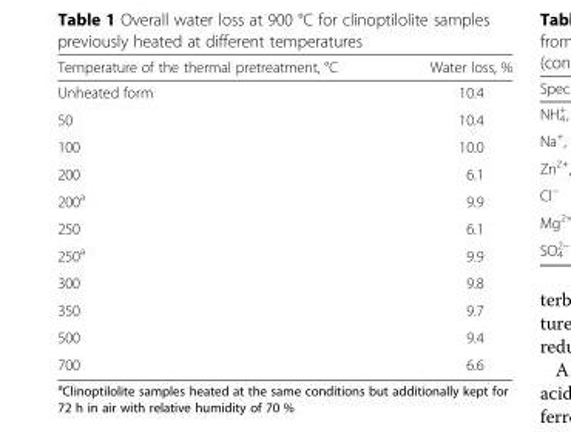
<table><thead><tr><td>Temperature of the thermal pretreatment, °C</td><td>Water loss, %</td></tr></thead><tbody><tr><td>Unheated form</td><td>10.4</td></tr><tr><td>50</td><td>10.4</td></tr><tr><td>100</td><td>10.0</td></tr><tr><td>200</td><td>6.1</td></tr><tr><td>200<sup>а</sup></td><td>9.9</td></tr><tr><td>250</td><td>6.1</td></tr><tr><td>250<sup>а</sup></td><td>9.9</td></tr><tr><td>300</td><td>9.8</td></tr><tr><td>350</td><td>9.7</td></tr><tr><td>500</td><td>9.4</td></tr><tr><td>700</td><td>6.6</td></tr></tbody></table>